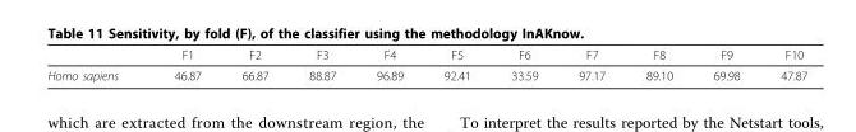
<table><thead><tr><td></td><td>F1</td><td>F2</td><td>F3</td><td>F4</td><td>F5</td><td>F6</td><td>F7</td><td>F8</td><td>F9</td><td>F10</td></tr></thead><tbody><tr><td>Homo sapiens</td><td>46.87</td><td>66.87</td><td>88.87</td><td>96.89</td><td>92.41</td><td>33.59</td><td>97.17</td><td>89.10</td><td>69.98</td><td>47.87</td></tr></tbody></table>